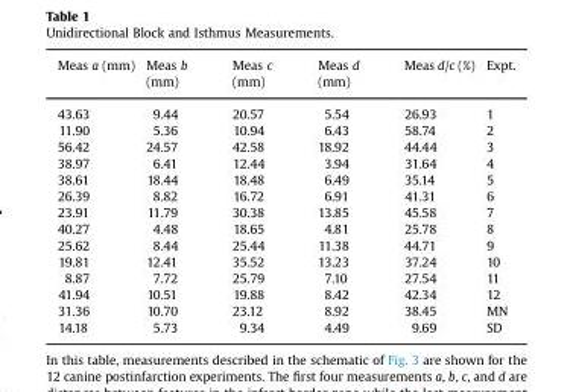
<table><thead><tr><td>Meas a (mm)</td><td>Meas b (mm)</td><td>Meas c (mm)</td><td>Meas d (mm)</td><td>Meas d/c (%)</td><td>Expt.</td></tr></thead><tbody><tr><td>43.63</td><td>9.44</td><td>20.57</td><td>5.54</td><td>26.93</td><td>1</td></tr><tr><td>11.90</td><td>5.36</td><td>10.94</td><td>6.43</td><td>58.74</td><td>2</td></tr><tr><td>56.42</td><td>24.57</td><td>42.58</td><td>18.92</td><td>44.44</td><td>3</td></tr><tr><td>38.97</td><td>6.41</td><td>12.44</td><td>3.94</td><td>31.64</td><td>4</td></tr><tr><td>38.61</td><td>18.44</td><td>18.48</td><td>6.49</td><td>35.14</td><td>5</td></tr><tr><td>26.39</td><td>8.82</td><td>16.72</td><td>6.91</td><td>41.31</td><td>6</td></tr><tr><td>23.91</td><td>11.79</td><td>30.38</td><td>13.85</td><td>45.58</td><td>7</td></tr><tr><td>40.27</td><td>4.48</td><td>18.65</td><td>4.81</td><td>25.78</td><td>8</td></tr><tr><td>25.62</td><td>8.44</td><td>25.44</td><td>11.38</td><td>44.71</td><td>9</td></tr><tr><td>19.81</td><td>12.41</td><td>35.52</td><td>13.23</td><td>37.24</td><td>10</td></tr><tr><td>8.87</td><td>7.72</td><td>25.79</td><td>7.10</td><td>27.54</td><td>11</td></tr><tr><td>41.94</td><td>10.51</td><td>19.88</td><td>8.42</td><td>42.34</td><td>12</td></tr><tr><td>31.36</td><td>10.70</td><td>23.12</td><td>8.92</td><td>38.45</td><td>MN</td></tr><tr><td>14.18</td><td>5.73</td><td>9.34</td><td>4.49</td><td>9.69</td><td>SD</td></tr></tbody></table>